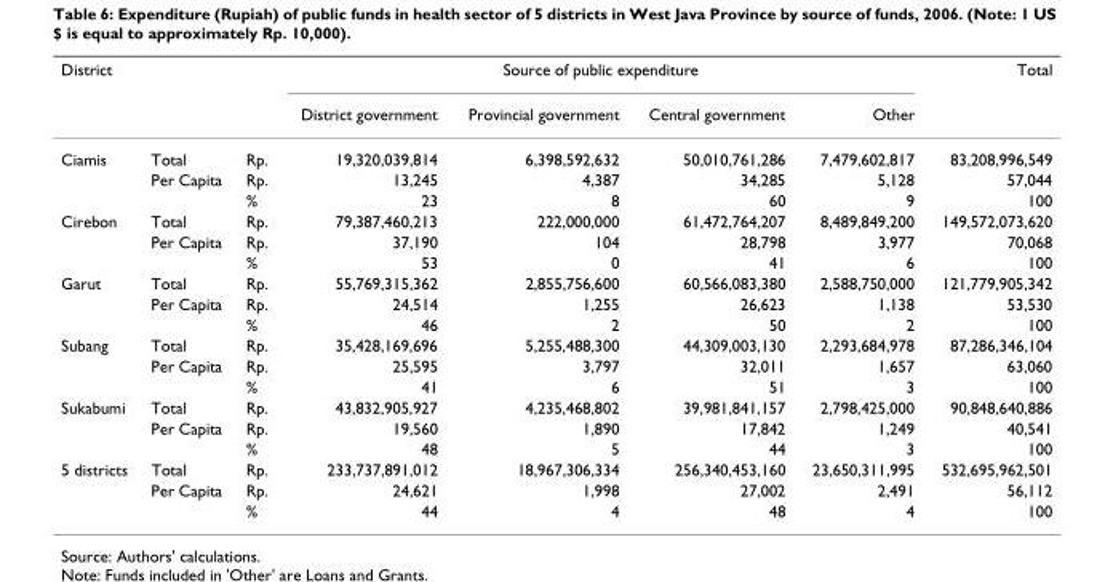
<table><thead><tr><td rowspan="2">District</td><td rowspan="2"></td><td rowspan="2"></td><td colspan="4">Source of public expenditure</td><td rowspan="2">Total</td></tr><tr><td>District government</td><td>Provincial government</td><td>Central government</td><td>Other</td></tr></thead><tbody><tr><td rowspan="3">Ciamis</td><td>Total</td><td>Rp.</td><td>19,320,039,814</td><td>6,398,592,632</td><td>50,010,761,286</td><td>7,479,602,817</td><td>83,208,996,549</td></tr><tr><td>Per Capita</td><td>Rp.</td><td>13,245</td><td>4,387</td><td>34,285</td><td>5,128</td><td>57,044</td></tr><tr><td></td><td>%</td><td>23</td><td>8</td><td>60</td><td>9</td><td>100</td></tr><tr><td rowspan="3">Cirebon</td><td>Total</td><td>Rp.</td><td>79,387,460,213</td><td>222,000,000</td><td>61,472,764,207</td><td>8,489,849,200</td><td>149,572,073,620</td></tr><tr><td>Per Capita</td><td>Rp.</td><td>37,190</td><td>104</td><td>28,798</td><td>3,977</td><td>70,068</td></tr><tr><td></td><td>%</td><td>53</td><td>0</td><td>41</td><td>6</td><td>100</td></tr><tr><td rowspan="3">Garut</td><td>Total</td><td>Rp.</td><td>55,769,315,362</td><td>2,855,756,600</td><td>60,566,083,380</td><td>2,588,750,000</td><td>121,779,905,342</td></tr><tr><td>Per Capita</td><td>Rp.</td><td>24,514</td><td>1,255</td><td>26,623</td><td>1,138</td><td>53,530</td></tr><tr><td></td><td>%</td><td>46</td><td>2</td><td>50</td><td>2</td><td>100</td></tr><tr><td rowspan="3">Subang</td><td>Total</td><td>Rp.</td><td>35,428,169,696</td><td>5,255,488,300</td><td>44,309,003,130</td><td>2,293,684,978</td><td>87,286,346,104</td></tr><tr><td>Per Capita</td><td>Rp.</td><td>25,595</td><td>3,797</td><td>32,011</td><td>1,657</td><td>63,060</td></tr><tr><td></td><td>%</td><td>41</td><td>6</td><td>51</td><td>3</td><td>100</td></tr><tr><td rowspan="3">Sukabumi</td><td>Total</td><td>Rp.</td><td>43,832,905,927</td><td>4,235,468,802</td><td>39,981,841,157</td><td>2,798,425,000</td><td>90,848,640,886</td></tr><tr><td>Per Capita</td><td>Rp.</td><td>19,560</td><td>1,890</td><td>17,842</td><td>1,249</td><td>40,541</td></tr><tr><td></td><td>%</td><td>48</td><td>5</td><td>44</td><td>3</td><td>100</td></tr><tr><td rowspan="3">5 districts</td><td>Total</td><td>Rp.</td><td>233,737,891,012</td><td>18,967,306,334</td><td>256,340,453,160</td><td>23,650,311,995</td><td>532,695,962,501</td></tr><tr><td>Per Capita</td><td>Rp.</td><td>24,621</td><td>1,998</td><td>27,002</td><td>2,491</td><td>56,112</td></tr><tr><td></td><td>%</td><td>44</td><td>4</td><td>48</td><td>4</td><td>100</td></tr></tbody></table>